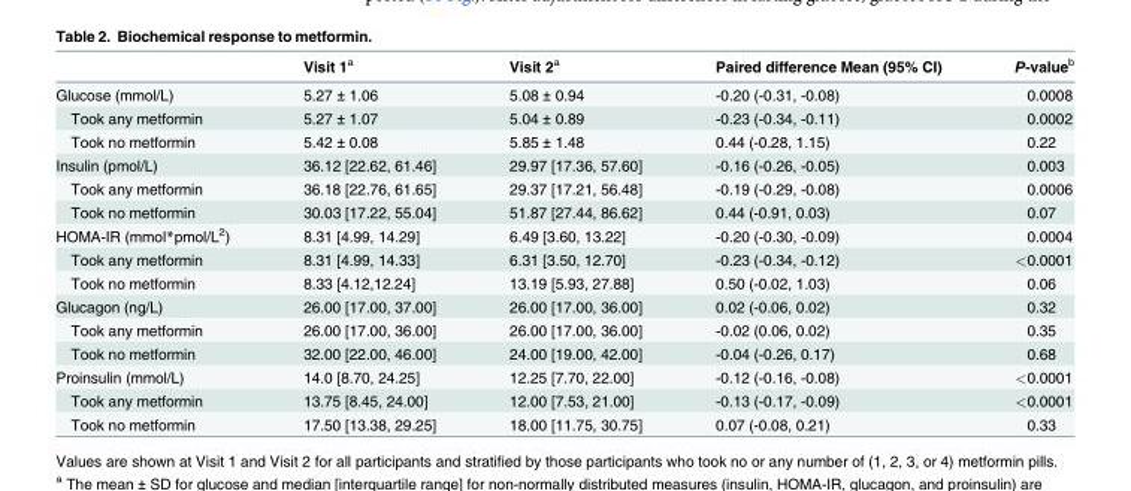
<table><thead><tr><td></td><td>Visit 1<sup>a</sup></td><td>Visit 2<sup>a</sup></td><td>Paired difference Mean (95% CI)</td><td>P-value<sup>b</sup></td></tr></thead><tbody><tr><td>Glucose (mmol/L)</td><td>5.27 ± 1.06</td><td>5.08 ± 0.94</td><td>-0.20 (-0.31, -0.08)</td><td>0.0008</td></tr><tr><td>Took any metformin</td><td>5.27 ± 1.07</td><td>5.04 ± 0.89</td><td>-0.23 (-0.34, -0.11)</td><td>0.0002</td></tr><tr><td>Took no metformin</td><td>5.42 ± 0.08</td><td>5.85 ± 1.48</td><td>0.44 (-0.28, 1.15)</td><td>0.22</td></tr><tr><td>Insulin (pmol/L)</td><td>36.12 [22.62, 61.46]</td><td>29.97 [17.36, 57.60]</td><td>-0.16 (-0.26, -0.05)</td><td>0.003</td></tr><tr><td>Took any metformin</td><td>36.18 [22.76, 61.65]</td><td>29.37 [17.21, 56.48]</td><td>-0.19 (-0.29, -0.08)</td><td>0.0006</td></tr><tr><td>Took no metformin</td><td>30.03 [17.22, 55.04]</td><td>51.87 [27.44, 86.62]</td><td>0.44 (-0.91, 0.03)</td><td>0.07</td></tr><tr><td>HOMA-IR (mmol*pmol/L<sup>2</sup>)</td><td>8.31 [4.99, 14.29]</td><td>6.49 [3.60, 13.22]</td><td>-0.20 (-0.30, -0.09)</td><td>0.0004</td></tr><tr><td>Took any metformin</td><td>8.31 [4.99, 14.33]</td><td>6.31 [3.50, 12.70]</td><td>-0.23 (-0.34, -0.12)</td><td>&lt;0.0001</td></tr><tr><td>Took no metformin</td><td>8.33 [4.12,12.24]</td><td>13.19 [5.93, 27.88]</td><td>0.50 (-0.02, 1.03)</td><td>0.06</td></tr><tr><td>Glucagon (ng/L)</td><td>26.00 [17.00, 37.00]</td><td>26.00 [17.00, 36.00]</td><td>0.02 (-0.06, 0.02)</td><td>0.32</td></tr><tr><td>Took any metformin</td><td>26.00 [17.00, 36.00]</td><td>26.00 [17.00, 36.00]</td><td>-0.02 (0.06, 0.02)</td><td>0.35</td></tr><tr><td>Took no metformin</td><td>32.00 [22.00, 46.00]</td><td>24.00 [19.00, 42.00]</td><td>-0.04 (-0.26, 0.17)</td><td>0.68</td></tr><tr><td>Proinsulin (mmol/L)</td><td>14.0 [8.70, 24.25]</td><td>12.25 [7.70, 22.00]</td><td>-0.12 (-0.16, -0.08)</td><td>&lt;0.0001</td></tr><tr><td>Took any metformin</td><td>13.75 [8.45, 24.00]</td><td>12.00 [7.53, 21.00]</td><td>-0.13 (-0.17, -0.09)</td><td>&lt;0.0001</td></tr><tr><td>Took no metformin</td><td>17.50 [13.38, 29.25]</td><td>18.00 [11.75, 30.75]</td><td>0.07 (-0.08, 0.21)</td><td>0.33</td></tr></tbody></table>